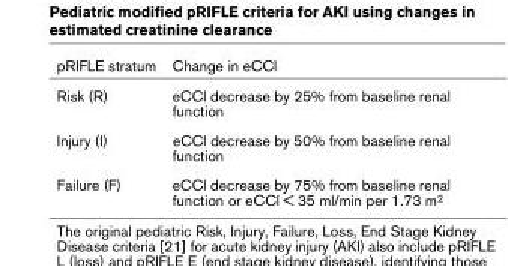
<table><thead><tr><td>pRIFLE stratum</td><td>Change in eCCl</td></tr></thead><tbody><tr><td>Risk (R)</td><td>eCCl decrease by 25% from baseline renal function</td></tr><tr><td>Injury (I)</td><td>eCCl decrease by 50% from baseline renal function</td></tr><tr><td>Failure (F)</td><td>eCCl decrease by 75% from baseline renal function or eCCl &lt; 35 ml/min per 1.73 m<sup>2</sup></td></tr></tbody></table>